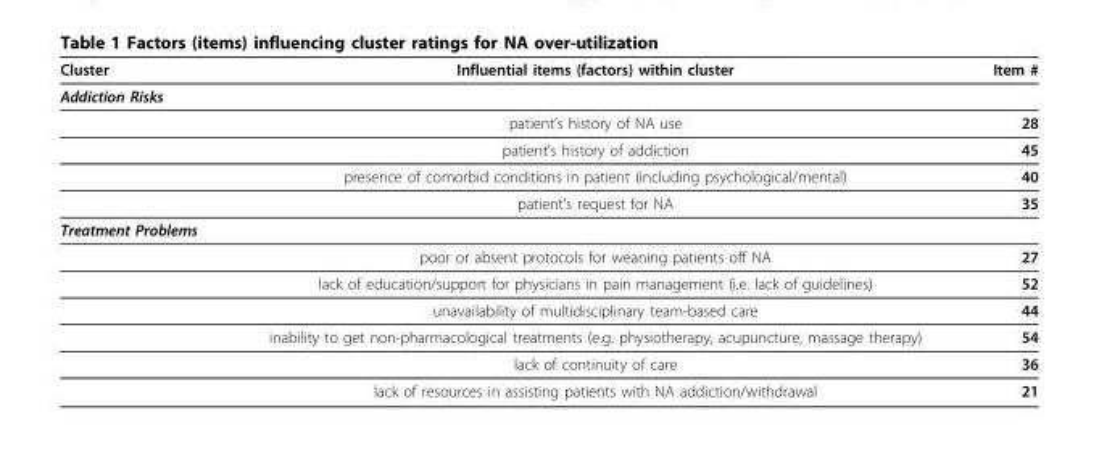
<table><thead><tr><td>Cluster</td><td>Influential items (factors) within cluster</td><td>Item #</td></tr></thead><tbody><tr><td colspan="3">Addiction Risks</td></tr><tr><td></td><td>patient’s history of NA use</td><td>28</td></tr><tr><td></td><td>patient’s history of addiction</td><td>45</td></tr><tr><td></td><td>presence of comorbid conditions in patient (including psychological/mental)</td><td>40</td></tr><tr><td></td><td>patient’s request for NA</td><td>35</td></tr><tr><td colspan="3">Treatment Problems</td></tr><tr><td></td><td>poor or absent protocols for weaning patients off NA</td><td>27</td></tr><tr><td></td><td>lack of education/support for physicians in pain management (i.e. lack of guidelines)</td><td>52</td></tr><tr><td></td><td>unavailability of multidisciplinary team-based care</td><td>44</td></tr><tr><td></td><td>inability to get non-pharmacological treatments (e.g. physiotherapy, acupuncture, massage therapy)</td><td>54</td></tr><tr><td></td><td>lack of continuity of care</td><td>36</td></tr><tr><td></td><td>lack of resources in assisting patients with NA addiction/withdrawal</td><td>21</td></tr></tbody></table>